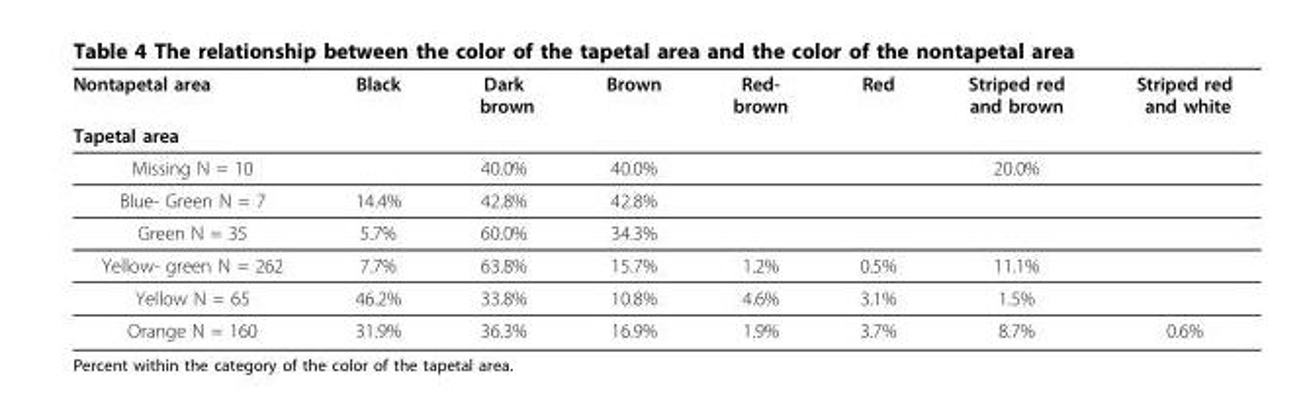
<table><thead><tr><td>Nontapetal area</td><td>Black</td><td>Dark brown</td><td>Brown</td><td>Red- brown</td><td>Red</td><td>Striped red and brown</td><td>Striped red and white</td></tr><tr><td colspan="8">Tapetal area</td></tr></thead><tbody><tr><td>Missing N = 10</td><td></td><td>40.0%</td><td>40.0%</td><td></td><td></td><td>20.0%</td><td></td></tr><tr><td>Blue- Green N = 7</td><td>14.4%</td><td>42.8%</td><td>42.8%</td><td></td><td></td><td></td><td></td></tr><tr><td>Green N = 35</td><td>5.7%</td><td>60.0%</td><td>34.3%</td><td></td><td></td><td></td><td></td></tr><tr><td>Yellow- green N = 262</td><td>7.7%</td><td>63.8%</td><td>15.7%</td><td>1.2%</td><td>0.5%</td><td>11.1%</td><td></td></tr><tr><td>Yellow N = 65</td><td>46.2%</td><td>33.8%</td><td>10.8%</td><td>4.6%</td><td>3.1%</td><td>1.5%</td><td></td></tr><tr><td>Orange N = 160</td><td>31.9%</td><td>36.3%</td><td>16.9%</td><td>1.9%</td><td>3.7%</td><td>8.7%</td><td>0.6%</td></tr></tbody></table>